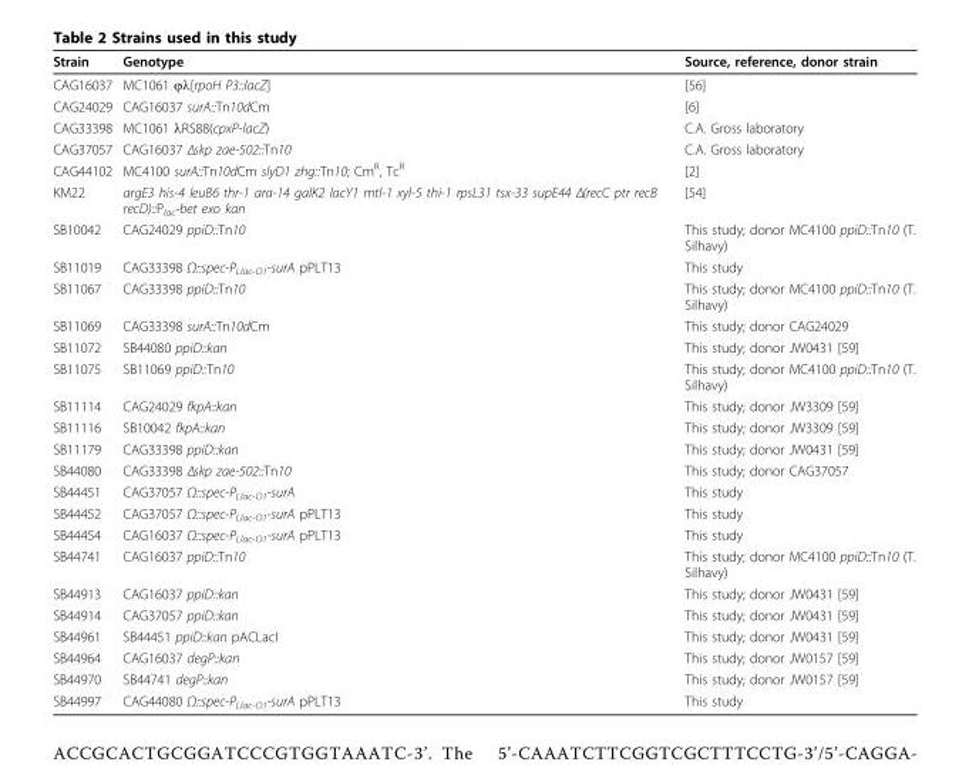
<table><thead><tr><td>Strain</td><td>Genotype</td><td>Source, reference, donor strain</td></tr></thead><tbody><tr><td>CAG16037</td><td>MC1061 ϕλ[rpoH P3::lacZ]</td><td>[56]</td></tr><tr><td>CAG24029</td><td>CAG16037 surA::Tn10dCm</td><td>[6]</td></tr><tr><td>CAG33398</td><td>MC1061 λRS88(cpxP-lacZ)</td><td>C.A. Gross laboratory</td></tr><tr><td>CAG37057</td><td>CAG16037 Δskp zae-502::Tn10</td><td>C.A. Gross laboratory</td></tr><tr><td>CAG44102</td><td>MC4100 surA::Tn10dCm slyD1 zhg::Tn10; Cm<sup>R</sup>, Tc<sup>R</sup></td><td>[2]</td></tr><tr><td>KM22</td><td>argE3 his-4 leuB6 thr-1 ara-14 galK2 lacY1 mtl-1 xyl-5 thi-1 rpsL31 tsx-33 supE44 Δ(recC ptr recB recD)::P<sub>lac</sub>-bet exo kan</td><td>[54]</td></tr><tr><td>SB10042</td><td>CAG24029 ppiD::Tn10</td><td>This study; donor MC4100 ppiD::Tn10 (T. Silhavy)</td></tr><tr><td>SB11019</td><td>CAG33398 Ω::spec-P<sub>Llac-O1</sub>-surA pPLT13</td><td>This study</td></tr><tr><td>SB11067</td><td>CAG33398 ppiD::Tn10</td><td>This study; donor MC4100 ppiD::Tn10 (T. Silhavy)</td></tr><tr><td>SB11069</td><td>CAG33398 surA::Tn10dCm</td><td>This study; donor CAG24029</td></tr><tr><td>SB11072</td><td>SB44080 ppiD::kan</td><td>This study; donor JW0431 [59]</td></tr><tr><td>SB11075</td><td>SB11069 ppiD::Tn10</td><td>This study; donor MC4100 ppiD::Tn10 (T. Silhavy)</td></tr><tr><td>SB11114</td><td>CAG24029 fkpA::kan</td><td>This study; donor JW3309 [59]</td></tr><tr><td>SB11116</td><td>SB10042 fkpA::kan</td><td>This study; donor JW3309 [59]</td></tr><tr><td>SB11179</td><td>CAG33398 ppiD::kan</td><td>This study; donor JW0431 [59]</td></tr><tr><td>SB44080</td><td>CAG33398 Δskp zae-502::Tn10</td><td>This study; donor CAG37057</td></tr><tr><td>SB44451</td><td>CAG37057 Ω::spec-P<sub>Llac-O1</sub>-surA</td><td>This study</td></tr><tr><td>SB44452</td><td>CAG37057 Ω::spec-P<sub>Llac-O1</sub>-surA pPLT13</td><td>This study</td></tr><tr><td>SB44454</td><td>CAG16037 Ω::spec-P<sub>Llac-O1</sub>-surA pPLT13</td><td>This study</td></tr><tr><td>SB44741</td><td>CAG16037 ppiD::Tn10</td><td>This study; donor MC4100 ppiD::Tn10 (T. Silhavy)</td></tr><tr><td>SB44913</td><td>CAG16037 ppiD::kan</td><td>This study; donor JW0431 [59]</td></tr><tr><td>SB44914</td><td>CAG37057 ppiD::kan</td><td>This study; donor JW0431 [59]</td></tr><tr><td>SB44961</td><td>SB44451 ppiD::kan pACLacI</td><td>This study; donor JW0431 [59]</td></tr><tr><td>SB44964</td><td>CAG16037 degP::kan</td><td>This study; donor JW0157 [59]</td></tr><tr><td>SB44970</td><td>SB44741 degP::kan</td><td>This study; donor JW0157 [59]</td></tr><tr><td>SB44997</td><td>CAG44080 Ω::spec-P<sub>Llac-O1</sub>-surA pPLT13</td><td>This study</td></tr></tbody></table>